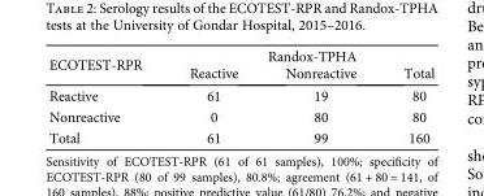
<table><thead><tr><td rowspan="2">ECOTEST-RPR</td><td colspan="3">Randox-TPHA</td></tr><tr><td>Reactive</td><td>Nonreactive</td><td>Total</td></tr></thead><tbody><tr><td>Reactive</td><td>61</td><td>19</td><td>80</td></tr><tr><td>Nonreactive</td><td>0</td><td>80</td><td>80</td></tr><tr><td>Total</td><td>61</td><td>99</td><td>160</td></tr></tbody></table>